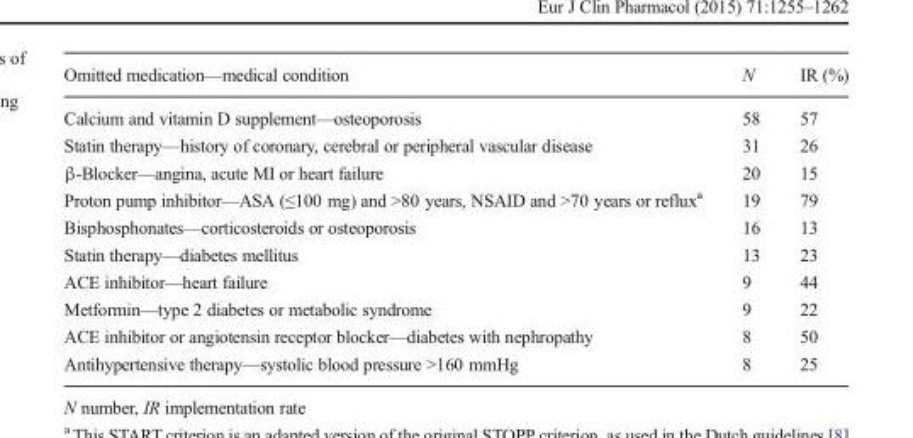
<table><thead><tr><td>Omitted medication—medical condition</td><td>N</td><td>IR (%)</td></tr></thead><tbody><tr><td>Calcium and vitamin D supplement—osteoporosis</td><td>58</td><td>57</td></tr><tr><td>Statin therapy—history of coronary, cerebral or peripheral vascular disease</td><td>31</td><td>26</td></tr><tr><td>β-Blocker—angina, acute MI or heart failure</td><td>20</td><td>15</td></tr><tr><td>Proton pump inhibitor—ASA (≤100 mg) and &gt;80 years, NSAID and &gt;70 years or reflux<sup>a</sup></td><td>19</td><td>79</td></tr><tr><td>Bisphosphonates—corticosteroids or osteoporosis</td><td>16</td><td>13</td></tr><tr><td>Statin therapy—diabetes mellitus</td><td>13</td><td>23</td></tr><tr><td>ACE inhibitor—heart failure</td><td>9</td><td>44</td></tr><tr><td>Metformin—type 2 diabetes or metabolic syndrome</td><td>9</td><td>22</td></tr><tr><td>ACE inhibitor or angiotensin receptor blocker—diabetes with nephropathy</td><td>8</td><td>50</td></tr><tr><td>Antihypertensive therapy—systolic blood pressure &gt;160 mmHg</td><td>8</td><td>25</td></tr></tbody></table>